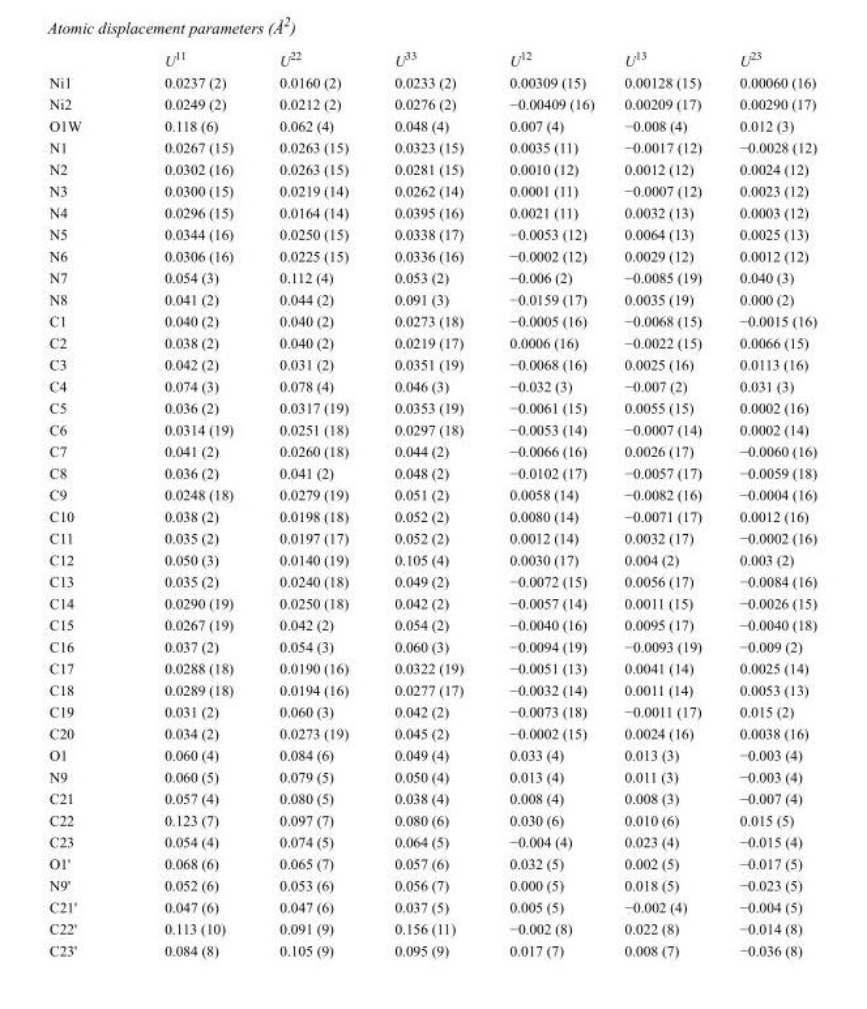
<table><thead><tr><td></td><td>U<sup>11</sup></td><td>U<sup>22</sup></td><td>U<sup>33</sup></td><td>U<sup>12</sup></td><td>U<sup>13</sup></td><td>U<sup>23</sup></td></tr></thead><tbody><tr><td>Ni1</td><td>0.0237 (2)</td><td>0.0160 (2)</td><td>0.0233 (2)</td><td>0.00309 (15)</td><td>0.00128 (15)</td><td>0.00060 (16)</td></tr><tr><td>Ni2</td><td>0.0249 (2)</td><td>0.0212 (2)</td><td>0.0276 (2)</td><td>−0.00409 (16)</td><td>0.00209 (17)</td><td>0.00290 (17)</td></tr><tr><td>O1W</td><td>0.118 (6)</td><td>0.062 (4)</td><td>0.048 (4)</td><td>0.007 (4)</td><td>−0.008 (4)</td><td>0.012 (3)</td></tr><tr><td>N1</td><td>0.0267 (15)</td><td>0.0263 (15)</td><td>0.0323 (15)</td><td>0.0035 (11)</td><td>−0.0017 (12)</td><td>−0.0028 (12)</td></tr><tr><td>N2</td><td>0.0302 (16)</td><td>0.0263 (15)</td><td>0.0281 (15)</td><td>0.0010 (12)</td><td>0.0012 (12)</td><td>0.0024 (12)</td></tr><tr><td>N3</td><td>0.0300 (15)</td><td>0.0219 (14)</td><td>0.0262 (14)</td><td>0.0001 (11)</td><td>−0.0007 (12)</td><td>0.0023 (12)</td></tr><tr><td>N4</td><td>0.0296 (15)</td><td>0.0164 (14)</td><td>0.0395 (16)</td><td>0.0021 (11)</td><td>0.0032 (13)</td><td>0.0003 (12)</td></tr><tr><td>N5</td><td>0.0344 (16)</td><td>0.0250 (15)</td><td>0.0338 (17)</td><td>−0.0053 (12)</td><td>0.0064 (13)</td><td>0.0025 (13)</td></tr><tr><td>N6</td><td>0.0306 (16)</td><td>0.0225 (15)</td><td>0.0336 (16)</td><td>−0.0002 (12)</td><td>0.0029 (12)</td><td>0.0012 (12)</td></tr><tr><td>N7</td><td>0.054 (3)</td><td>0.112 (4)</td><td>0.053 (2)</td><td>−0.006 (2)</td><td>−0.0085 (19)</td><td>0.040 (3)</td></tr><tr><td>N8</td><td>0.041 (2)</td><td>0.044 (2)</td><td>0.091 (3)</td><td>−0.0159 (17)</td><td>0.0035 (19)</td><td>0.000 (2)</td></tr><tr><td>C1</td><td>0.040 (2)</td><td>0.040 (2)</td><td>0.0273 (18)</td><td>−0.0005 (16)</td><td>−0.0068 (15)</td><td>−0.0015 (16)</td></tr><tr><td>C2</td><td>0.038 (2)</td><td>0.040 (2)</td><td>0.0219 (17)</td><td>0.0006 (16)</td><td>−0.0022 (15)</td><td>0.0066 (15)</td></tr><tr><td>C3</td><td>0.042 (2)</td><td>0.031 (2)</td><td>0.0351 (19)</td><td>−0.0068 (16)</td><td>0.0025 (16)</td><td>0.0113 (16)</td></tr><tr><td>C4</td><td>0.074 (3)</td><td>0.078 (4)</td><td>0.046 (3)</td><td>−0.032 (3)</td><td>−0.007 (2)</td><td>0.031 (3)</td></tr><tr><td>C5</td><td>0.036 (2)</td><td>0.0317 (19)</td><td>0.0353 (19)</td><td>−0.0061 (15)</td><td>0.0055 (15)</td><td>0.0002 (16)</td></tr><tr><td>C6</td><td>0.0314 (19)</td><td>0.0251 (18)</td><td>0.0297 (18)</td><td>−0.0053 (14)</td><td>−0.0007 (14)</td><td>0.0002 (14)</td></tr><tr><td>C7</td><td>0.041 (2)</td><td>0.0260 (18)</td><td>0.044 (2)</td><td>−0.0066 (16)</td><td>0.0026 (17)</td><td>−0.0060 (16)</td></tr><tr><td>C8</td><td>0.036 (2)</td><td>0.041 (2)</td><td>0.048 (2)</td><td>−0.0102 (17)</td><td>−0.0057 (17)</td><td>−0.0059 (18)</td></tr><tr><td>C9</td><td>0.0248 (18)</td><td>0.0279 (19)</td><td>0.051 (2)</td><td>0.0058 (14)</td><td>−0.0082 (16)</td><td>−0.0004 (16)</td></tr><tr><td>C10</td><td>0.038 (2)</td><td>0.0198 (18)</td><td>0.052 (2)</td><td>0.0080 (14)</td><td>−0.0071 (17)</td><td>0.0012 (16)</td></tr><tr><td>C11</td><td>0.035 (2)</td><td>0.0197 (17)</td><td>0.052 (2)</td><td>0.0012 (14)</td><td>0.0032 (17)</td><td>−0.0002 (16)</td></tr><tr><td>C12</td><td>0.050 (3)</td><td>0.0140 (19)</td><td>0.105 (4)</td><td>0.0030 (17)</td><td>0.004 (2)</td><td>0.003 (2)</td></tr><tr><td>C13</td><td>0.035 (2)</td><td>0.0240 (18)</td><td>0.049 (2)</td><td>−0.0072 (15)</td><td>0.0056 (17)</td><td>−0.0084 (16)</td></tr><tr><td>C14</td><td>0.0290 (19)</td><td>0.0250 (18)</td><td>0.042 (2)</td><td>−0.0057 (14)</td><td>0.0011 (15)</td><td>−0.0026 (15)</td></tr><tr><td>C15</td><td>0.0267 (19)</td><td>0.042 (2)</td><td>0.054 (2)</td><td>−0.0040 (16)</td><td>0.0095 (17)</td><td>−0.0040 (18)</td></tr><tr><td>C16</td><td>0.037 (2)</td><td>0.054 (3)</td><td>0.060 (3)</td><td>−0.0094 (19)</td><td>−0.0093 (19)</td><td>−0.009 (2)</td></tr><tr><td>C17</td><td>0.0288 (18)</td><td>0.0190 (16)</td><td>0.0322 (19)</td><td>−0.0051 (13)</td><td>0.0041 (14)</td><td>0.0025 (14)</td></tr><tr><td>C18</td><td>0.0289 (18)</td><td>0.0194 (16)</td><td>0.0277 (17)</td><td>−0.0032 (14)</td><td>0.0011 (14)</td><td>0.0053 (13)</td></tr><tr><td>C19</td><td>0.031 (2)</td><td>0.060 (3)</td><td>0.042 (2)</td><td>−0.0073 (18)</td><td>−0.0011 (17)</td><td>0.015 (2)</td></tr><tr><td>C20</td><td>0.034 (2)</td><td>0.0273 (19)</td><td>0.045 (2)</td><td>−0.0002 (15)</td><td>0.0024 (16)</td><td>0.0038 (16)</td></tr><tr><td>O1</td><td>0.060 (4)</td><td>0.084 (6)</td><td>0.049 (4)</td><td>0.033 (4)</td><td>0.013 (3)</td><td>−0.003 (4)</td></tr><tr><td>N9</td><td>0.060 (5)</td><td>0.079 (5)</td><td>0.050 (4)</td><td>0.013 (4)</td><td>0.011 (3)</td><td>−0.003 (4)</td></tr><tr><td>C21</td><td>0.057 (4)</td><td>0.080 (5)</td><td>0.038 (4)</td><td>0.008 (4)</td><td>0.008 (3)</td><td>−0.007 (4)</td></tr><tr><td>C22</td><td>0.123 (7)</td><td>0.097 (7)</td><td>0.080 (6)</td><td>0.030 (6)</td><td>0.010 (6)</td><td>0.015 (5)</td></tr><tr><td>C23</td><td>0.054 (4)</td><td>0.074 (5)</td><td>0.064 (5)</td><td>−0.004 (4)</td><td>0.023 (4)</td><td>−0.015 (4)</td></tr><tr><td>O1&#x27;</td><td>0.068 (6)</td><td>0.065 (7)</td><td>0.057 (6)</td><td>0.032 (5)</td><td>0.002 (5)</td><td>−0.017 (5)</td></tr><tr><td>N9&#x27;</td><td>0.052 (6)</td><td>0.053 (6)</td><td>0.056 (7)</td><td>0.000 (5)</td><td>0.018 (5)</td><td>−0.023 (5)</td></tr><tr><td>C21&#x27;</td><td>0.047 (6)</td><td>0.047 (6)</td><td>0.037 (5)</td><td>0.005 (5)</td><td>−0.002 (4)</td><td>−0.004 (5)</td></tr><tr><td>C22&#x27;</td><td>0.113 (10)</td><td>0.091 (9)</td><td>0.156 (11)</td><td>−0.002 (8)</td><td>0.022 (8)</td><td>−0.014 (8)</td></tr><tr><td>C23&#x27;</td><td>0.084 (8)</td><td>0.105 (9)</td><td>0.095 (9)</td><td>0.017 (7)</td><td>0.008 (7)</td><td>−0.036 (8)</td></tr></tbody></table>